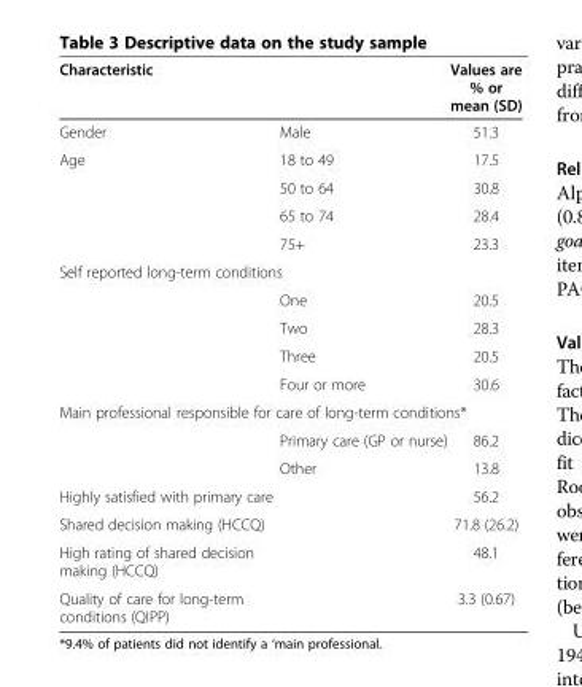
<table><thead><tr><td colspan="2">Characteristic</td><td rowspan="2">Values are % or mean (SD) 51.3</td></tr><tr><td>Gender</td><td>Male</td></tr></thead><tbody><tr><td rowspan="4">Age</td><td>18 to 49</td><td>17.5</td></tr><tr><td>50 to 64</td><td>30.8</td></tr><tr><td>65 to 74</td><td>28.4</td></tr><tr><td>75+</td><td>23.3</td></tr><tr><td colspan="3">Self reported long-term conditions</td></tr><tr><td></td><td>One</td><td>20.5</td></tr><tr><td></td><td>Two</td><td>28.3</td></tr><tr><td></td><td>Three</td><td>20.5</td></tr><tr><td></td><td>Four or more</td><td>30.6</td></tr><tr><td colspan="3">Main professional responsible for care of long-term conditions*</td></tr><tr><td></td><td>Primary care (GP or nurse)</td><td>86.2</td></tr><tr><td></td><td>Other</td><td>13.8</td></tr><tr><td>Highly satisfied with primary care</td><td></td><td>56.2</td></tr><tr><td>Shared decision making (HCCQ)</td><td></td><td>71.8 (26.2)</td></tr><tr><td>High rating of shared decision making (HCCQ)</td><td></td><td>48.1</td></tr><tr><td>Quality of care for long-term conditions (QIPP)</td><td></td><td>3.3 (0.67)</td></tr></tbody></table>